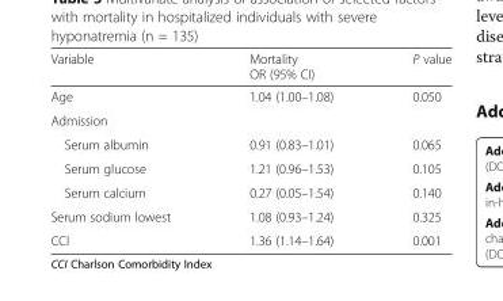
<table><thead><tr><td>Variable</td><td>Mortality OR (95% CI)</td><td>P value</td></tr></thead><tbody><tr><td>Age</td><td>1.04 (1.00–1.08)</td><td>0.050</td></tr><tr><td colspan="3">Admission</td></tr><tr><td>Serum albumin</td><td>0.91 (0.83–1.01)</td><td>0.065</td></tr><tr><td>Serum glucose</td><td>1.21 (0.96–1.53)</td><td>0.105</td></tr><tr><td>Serum calcium</td><td>0.27 (0.05–1.54)</td><td>0.140</td></tr><tr><td>Serum sodium lowest</td><td>1.08 (0.93–1.24)</td><td>0.325</td></tr><tr><td>CCI</td><td>1.36 (1.14–1.64)</td><td>0.001</td></tr></tbody></table>